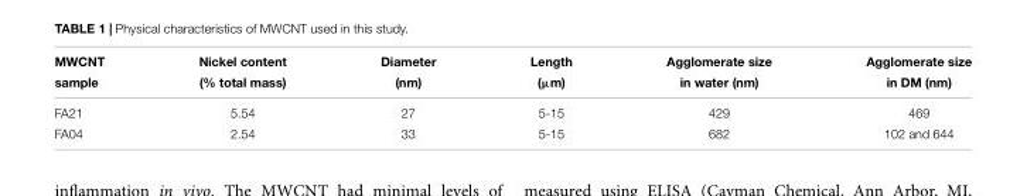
<table><thead><tr><td rowspan="2">MWCNT sample</td><td rowspan="2">Nickel content (% total mass)</td><td rowspan="2">Diameter (nm)</td><td rowspan="2">Length (µm)</td><td rowspan="2">Agglomerate size in water (nm)</td><td rowspan="2">Agglomerate size in DM (nm)</td></tr><tr></tr></thead><tbody><tr><td>FA21</td><td>5.54</td><td>27</td><td>5-15</td><td>429</td><td>469</td></tr><tr><td>FA04</td><td>2.54</td><td>33</td><td>5-15</td><td>682</td><td>102 and 644</td></tr></tbody></table>